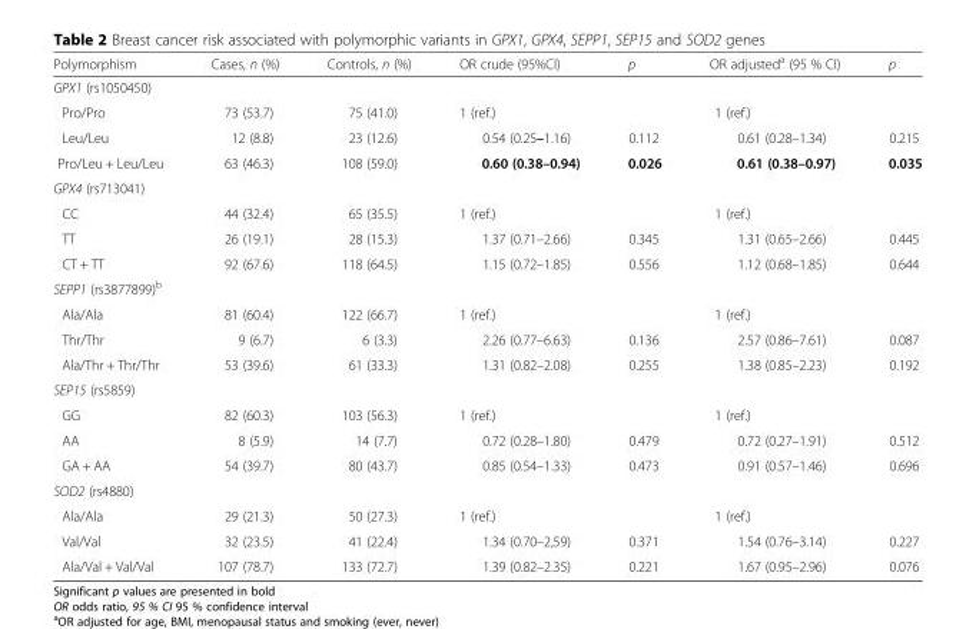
<table><thead><tr><td>Polymorphism</td><td>Cases, n (%)</td><td>Controls, n (%)</td><td>OR crude (95%CI)</td><td>p</td><td>OR adjusted<sup>a</sup> (95 % CI)</td><td>p</td></tr></thead><tbody><tr><td colspan="7">GPX1 (rs1050450)</td></tr><tr><td>Pro/Pro</td><td>73 (53.7)</td><td>75 (41.0)</td><td>1 (ref.)</td><td></td><td>1 (ref.)</td><td></td></tr><tr><td>Leu/Leu</td><td>12 (8.8)</td><td>23 (12.6)</td><td>0.54 (0.25–1.16)</td><td>0.112</td><td>0.61 (0.28–1.34)</td><td>0.215</td></tr><tr><td>Pro/Leu + Leu/Leu</td><td>63 (46.3)</td><td>108 (59.0)</td><td>0.60 (0.38–0.94)</td><td>0.026</td><td>0.61 (0.38–0.97)</td><td>0.035</td></tr><tr><td colspan="7">GPX4 (rs713041)</td></tr><tr><td>CC</td><td>44 (32.4)</td><td>65 (35.5)</td><td>1 (ref.)</td><td></td><td>1 (ref.)</td><td></td></tr><tr><td>TT</td><td>26 (19.1)</td><td>28 (15.3)</td><td>1.37 (0.71–2.66)</td><td>0.345</td><td>1.31 (0.65–2.66)</td><td>0.445</td></tr><tr><td>CT + TT</td><td>92 (67.6)</td><td>118 (64.5)</td><td>1.15 (0.72–1.85)</td><td>0.556</td><td>1.12 (0.68–1.85)</td><td>0.644</td></tr><tr><td colspan="7">SEPP1 (rs3877899)<sup>b</sup></td></tr><tr><td>Ala/Ala</td><td>81 (60.4)</td><td>122 (66.7)</td><td>1 (ref.)</td><td></td><td>1 (ref.)</td><td></td></tr><tr><td>Thr/Thr</td><td>9 (6.7)</td><td>6 (3.3)</td><td>2.26 (0.77–6.63)</td><td>0.136</td><td>2.57 (0.86–7.61)</td><td>0.087</td></tr><tr><td>Ala/Thr + Thr/Thr</td><td>53 (39.6)</td><td>61 (33.3)</td><td>1.31 (0.82–2.08)</td><td>0.255</td><td>1.38 (0.85–2.23)</td><td>0.192</td></tr><tr><td colspan="7">SEP15 (rs5859)</td></tr><tr><td>GG</td><td>82 (60.3)</td><td>103 (56.3)</td><td>1 (ref.)</td><td></td><td>1 (ref.)</td><td></td></tr><tr><td>AA</td><td>8 (5.9)</td><td>14 (7.7)</td><td>0.72 (0.28–1.80)</td><td>0.479</td><td>0.72 (0.27–1.91)</td><td>0.512</td></tr><tr><td>GA + AA</td><td>54 (39.7)</td><td>80 (43.7)</td><td>0.85 (0.54–1.33)</td><td>0.473</td><td>0.91 (0.57–1.46)</td><td>0.696</td></tr><tr><td colspan="7">SOD2 (rs4880)</td></tr><tr><td>Ala/Ala</td><td>29 (21.3)</td><td>50 (27.3)</td><td>1 (ref.)</td><td></td><td>1 (ref.)</td><td></td></tr><tr><td>Val/Val</td><td>32 (23.5)</td><td>41 (22.4)</td><td>1.34 (0.70–2,59)</td><td>0.371</td><td>1.54 (0.76–3.14)</td><td>0.227</td></tr><tr><td>Ala/Val + Val/Val</td><td>107 (78.7)</td><td>133 (72.7)</td><td>1.39 (0.82–2.35)</td><td>0.221</td><td>1.67 (0.95–2.96)</td><td>0.076</td></tr></tbody></table>